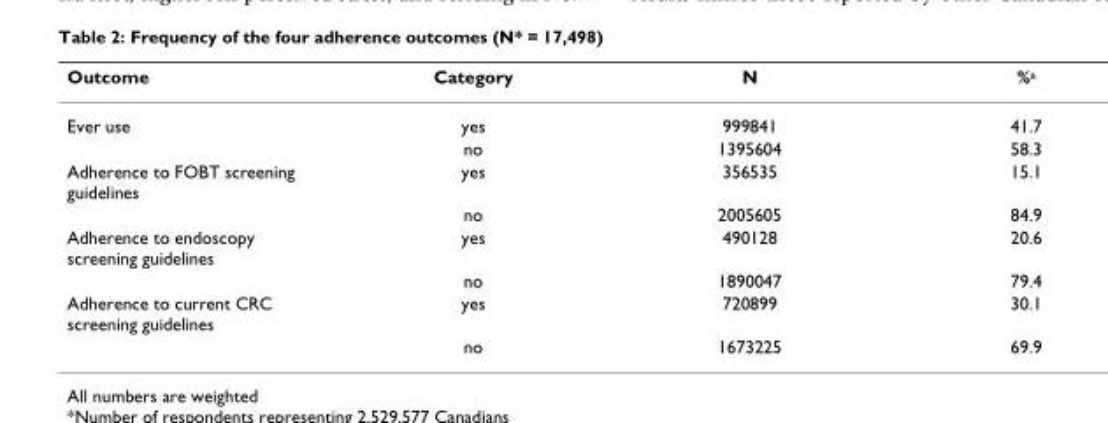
<table><thead><tr><td>Outcome</td><td>Category</td><td>N</td><td>%<sup>a</sup></td></tr></thead><tbody><tr><td rowspan="2">Ever use</td><td>yes</td><td>999841</td><td>41.7</td></tr><tr><td>no</td><td>1395604</td><td>58.3</td></tr><tr><td rowspan="2">Adherence to FOBT screening guidelines</td><td>yes</td><td>356535</td><td>15.1</td></tr><tr><td>no</td><td>2005605</td><td>84.9</td></tr><tr><td rowspan="2">Adherence to endoscopy screening guidelines</td><td>yes</td><td>490128</td><td>20.6</td></tr><tr><td>no</td><td>1890047</td><td>79.4</td></tr><tr><td rowspan="2">Adherence to current CRC screening guidelines</td><td>yes</td><td>720899</td><td>30.1</td></tr><tr><td>no</td><td>1673225</td><td>69.9</td></tr></tbody></table>